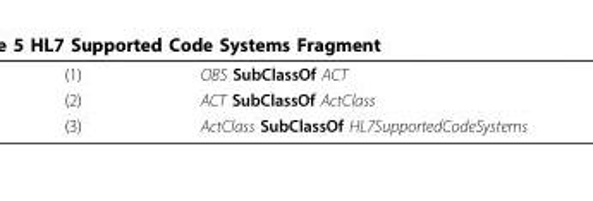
<table><tbody><tr><td>(1)</td><td>OBS SubClassOf ACT</td></tr><tr><td>(2)</td><td>ACT SubClassOf ActClass</td></tr><tr><td>(3)</td><td>ActClass SubClassOf HL7SupportedCodeSystems</td></tr></tbody></table>